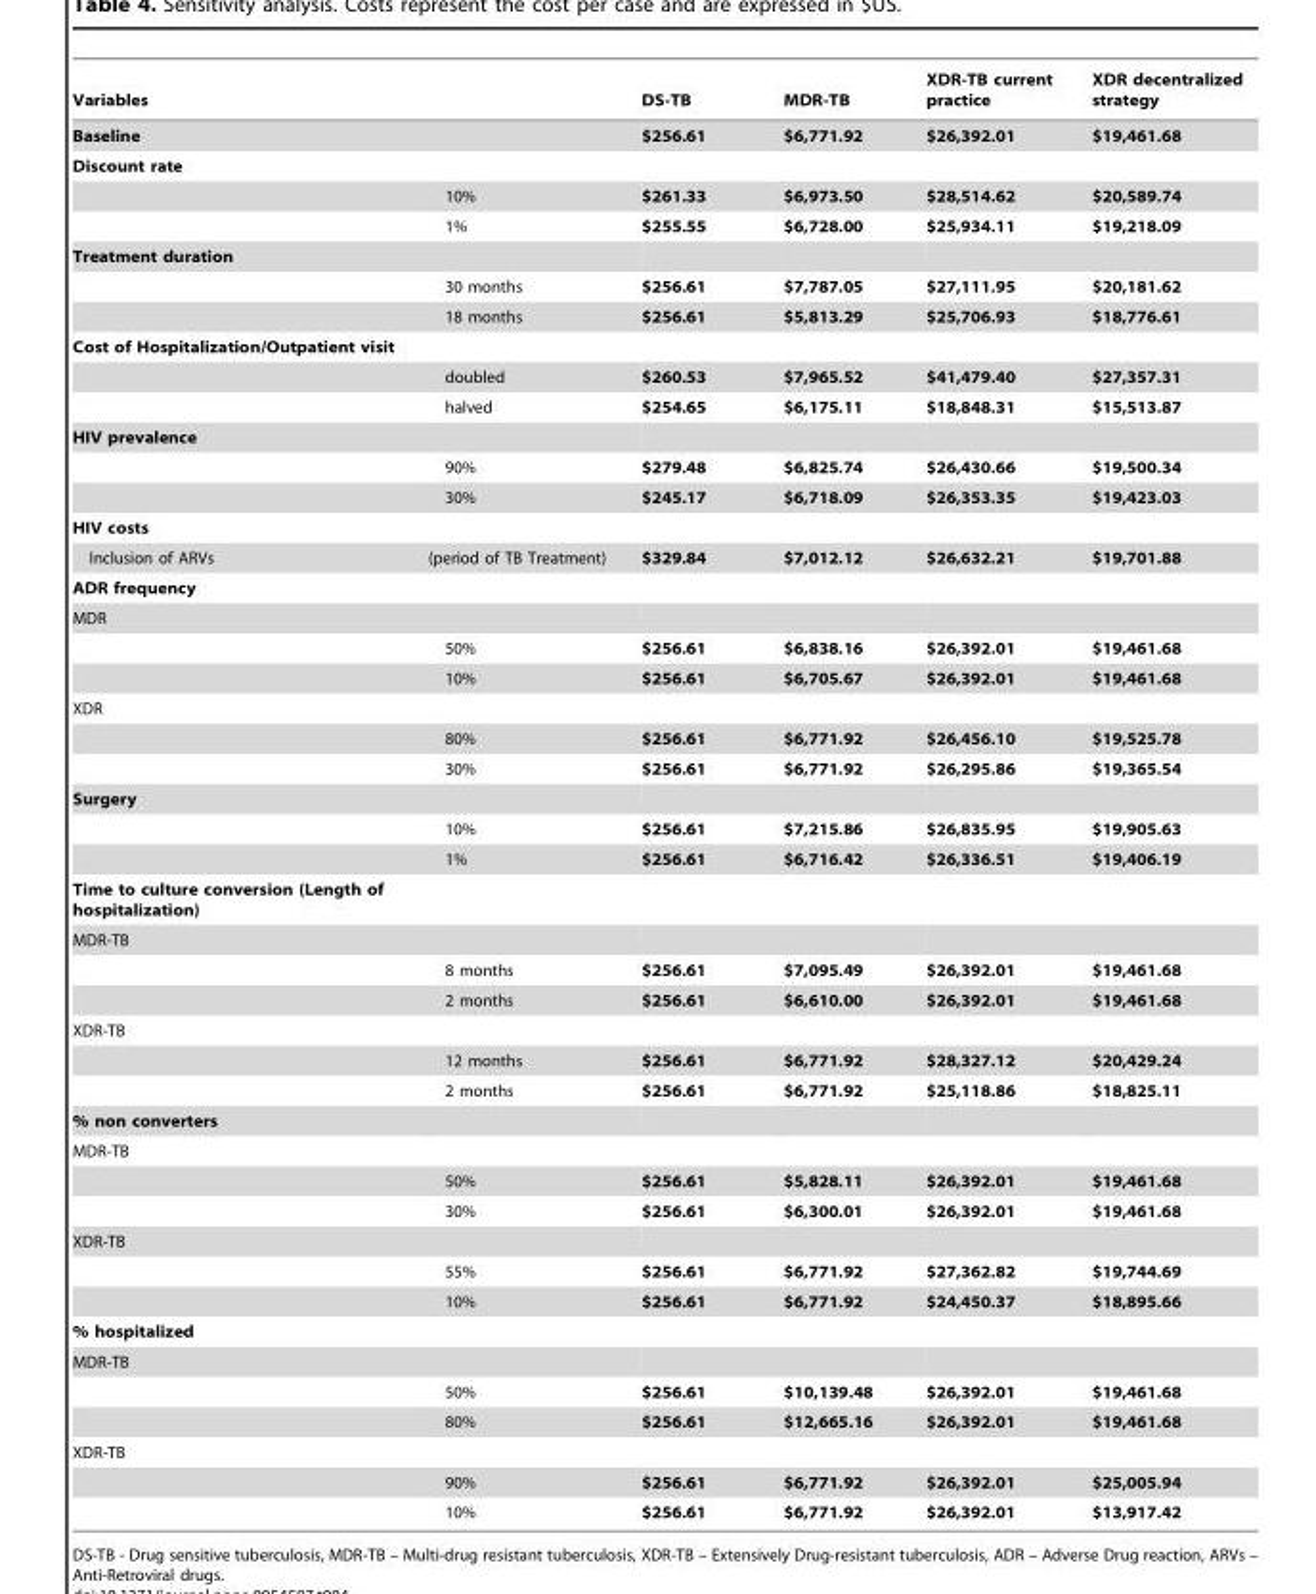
<table><thead><tr><td>Variables</td><td></td><td>DS-TB</td><td>MDR-TB</td><td>XDR-TB current practice</td><td>XDR decentralized strategy</td></tr></thead><tbody><tr><td>Baseline</td><td></td><td>$256.61</td><td>$6,771.92</td><td>$26,392.01</td><td>$19,461.68</td></tr><tr><td colspan="6">Discount rate</td></tr><tr><td></td><td>10%</td><td>$261.33</td><td>$6,973.50</td><td>$28,514.62</td><td>$20,589.74</td></tr><tr><td></td><td>1%</td><td>$255.55</td><td>$6,728.00</td><td>$25,934.11</td><td>$19,218.09</td></tr><tr><td colspan="6">Treatment duration</td></tr><tr><td></td><td>30 months</td><td>$256.61</td><td>$7,787.05</td><td>$27,111.95</td><td>$20,181.62</td></tr><tr><td></td><td>18 months</td><td>$256.61</td><td>$5,813.29</td><td>$25,706.93</td><td>$18,776.61</td></tr><tr><td colspan="6">Cost of Hospitalization/Outpatient visit</td></tr><tr><td></td><td>doubled</td><td>$260.53</td><td>$7,965.52</td><td>$41,479.40</td><td>$27,357.31</td></tr><tr><td></td><td>halved</td><td>$254.65</td><td>$6,175.11</td><td>$18,848.31</td><td>$15,513.87</td></tr><tr><td colspan="6">HIV prevalence</td></tr><tr><td></td><td>90%</td><td>$279.48</td><td>$6,825.74</td><td>$26,430.66</td><td>$19,500.34</td></tr><tr><td></td><td>30%</td><td>$245.17</td><td>$6,718.09</td><td>$26,353.35</td><td>$19,423.03</td></tr><tr><td colspan="6">HIV costs</td></tr><tr><td>Inclusion of ARVs</td><td>(period of TB Treatment)</td><td>$329.84</td><td>$7,012.12</td><td>$26,632.21</td><td>$19,701.88</td></tr><tr><td colspan="6">ADR frequency</td></tr><tr><td colspan="6">MDR</td></tr><tr><td></td><td>50%</td><td>$256.61</td><td>$6,838.16</td><td>$26,392.01</td><td>$19,461.68</td></tr><tr><td></td><td>10%</td><td>$256.61</td><td>$6,705.67</td><td>$26,392.01</td><td>$19,461.68</td></tr><tr><td colspan="6">XDR</td></tr><tr><td></td><td>80%</td><td>$256.61</td><td>$6,771.92</td><td>$26,456.10</td><td>$19,525.78</td></tr><tr><td></td><td>30%</td><td>$256.61</td><td>$6,771.92</td><td>$26,295.86</td><td>$19,365.54</td></tr><tr><td colspan="6">Surgery</td></tr><tr><td></td><td>10%</td><td>$256.61</td><td>$7,215.86</td><td>$26,835.95</td><td>$19,905.63</td></tr><tr><td></td><td>1%</td><td>$256.61</td><td>$6,716.42</td><td>$26,336.51</td><td>$19,406.19</td></tr><tr><td colspan="6">Time to culture conversion (Length of hospitalization)</td></tr><tr><td colspan="6">MDR-TB</td></tr><tr><td></td><td>8 months</td><td>$256.61</td><td>$7,095.49</td><td>$26,392.01</td><td>$19,461.68</td></tr><tr><td></td><td>2 months</td><td>$256.61</td><td>$6,610.00</td><td>$26,392.01</td><td>$19,461.68</td></tr><tr><td colspan="6">XDR-TB</td></tr><tr><td></td><td>12 months</td><td>$256.61</td><td>$6,771.92</td><td>$28,327.12</td><td>$20,429.24</td></tr><tr><td></td><td>2 months</td><td>$256.61</td><td>$6,771.92</td><td>$25,118.86</td><td>$18,825.11</td></tr><tr><td colspan="6">% non converters</td></tr><tr><td colspan="6">MDR-TB</td></tr><tr><td></td><td>50%</td><td>$256.61</td><td>$5,828.11</td><td>$26,392.01</td><td>$19,461.68</td></tr><tr><td></td><td>30%</td><td>$256.61</td><td>$6,300.01</td><td>$26,392.01</td><td>$19,461.68</td></tr><tr><td colspan="6">XDR-TB</td></tr><tr><td></td><td>55%</td><td>$256.61</td><td>$6,771.92</td><td>$27,362.82</td><td>$19,744.69</td></tr><tr><td></td><td>10%</td><td>$256.61</td><td>$6,771.92</td><td>$24,450.37</td><td>$18,895.66</td></tr><tr><td colspan="6">% hospitalized</td></tr><tr><td colspan="6">MDR-TB</td></tr><tr><td></td><td>50%</td><td>$256.61</td><td>$10,139.48</td><td>$26,392.01</td><td>$19,461.68</td></tr><tr><td></td><td>80%</td><td>$256.61</td><td>$12,665.16</td><td>$26,392.01</td><td>$19,461.68</td></tr><tr><td colspan="6">XDR-TB</td></tr><tr><td></td><td>90%</td><td>$256.61</td><td>$6,771.92</td><td>$26,392.01</td><td>$25,005.94</td></tr><tr><td></td><td>10%</td><td>$256.61</td><td>$6,771.92</td><td>$26,392.01</td><td>$13,917.42</td></tr></tbody></table>